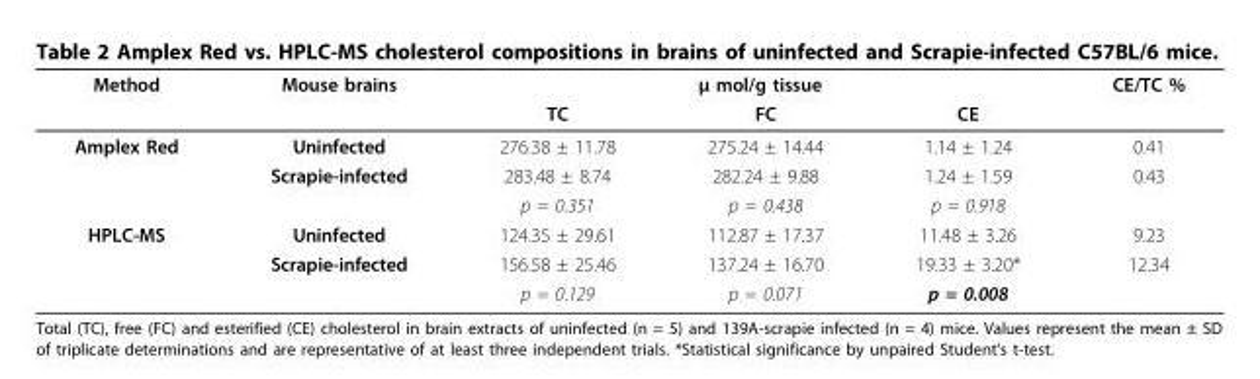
<table><thead><tr><td rowspan="2">Method</td><td rowspan="2">Mouse brains</td><td colspan="3">μ mol/g tissue</td><td rowspan="2">CE/TC %</td></tr><tr><td>TC</td><td>FC</td><td>CE</td></tr></thead><tbody><tr><td rowspan="3">Amplex Red</td><td>Uninfected</td><td>276.38 ± 11.78</td><td>275.24 ± 14.44</td><td>1.14 ± 1.24</td><td>0.41</td></tr><tr><td>Scrapie-infected</td><td>283.48 ± 8.74</td><td>282.24 ± 9.88</td><td>1.24 ± 1.59</td><td>0.43</td></tr><tr><td></td><td>p = 0.351</td><td>p = 0.438</td><td>p = 0.918</td><td></td></tr><tr><td rowspan="3">HPLC-MS</td><td>Uninfected</td><td>124.35 ± 29.61</td><td>112.87 ± 17.37</td><td>11.48 ± 3.26</td><td>9.23</td></tr><tr><td>Scrapie-infected</td><td>156.58 ± 25.46</td><td>137.24 ± 16.70</td><td>19.33 ± 3.20*</td><td>12.34</td></tr><tr><td></td><td>p = 0.129</td><td>p = 0.071</td><td>p = 0.008</td><td></td></tr></tbody></table>